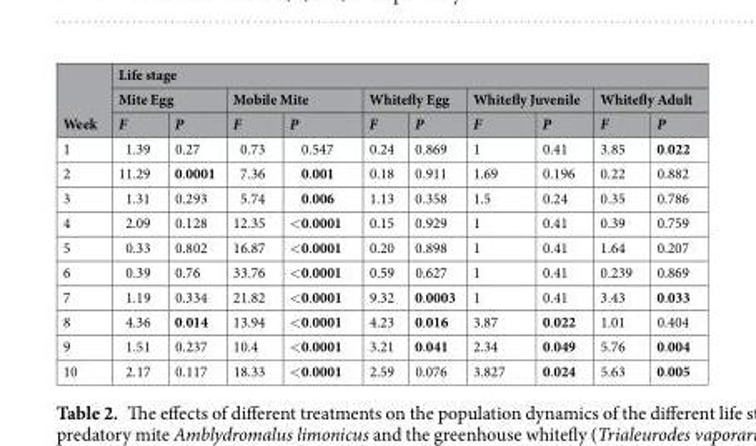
<table><thead><tr><td rowspan="3">Week</td><td colspan="10">Life stage</td></tr><tr><td colspan="2">Mite Egg</td><td colspan="2">Mobile Mite</td><td colspan="2">Whitefly Egg</td><td colspan="2">Whitefly Juvenile</td><td colspan="2">Whitefly Adult</td></tr><tr><td>F</td><td>P</td><td>F</td><td>P</td><td>F</td><td>P</td><td>F</td><td>P</td><td>F</td><td>P</td></tr></thead><tbody><tr><td>1</td><td>1.39</td><td>0.27</td><td>0.73</td><td>0.547</td><td>0.24</td><td>0.869</td><td>1</td><td>0.41</td><td>3.85</td><td>0.022</td></tr><tr><td>2</td><td>11.29</td><td>0.0001</td><td>7.36</td><td>0.001</td><td>0.18</td><td>0.911</td><td>1.69</td><td>0.196</td><td>0.22</td><td>0.882</td></tr><tr><td>3</td><td>1.31</td><td>0.293</td><td>5.74</td><td>0.006</td><td>1.13</td><td>0.358</td><td>1.5</td><td>0.24</td><td>0.35</td><td>0.786</td></tr><tr><td>4</td><td>2.09</td><td>0.128</td><td>12.35</td><td>&lt;0.0001</td><td>0.15</td><td>0.929</td><td>1</td><td>0.41</td><td>0.39</td><td>0.759</td></tr><tr><td>5</td><td>0.33</td><td>0.802</td><td>16.87</td><td>&lt;0.0001</td><td>0.20</td><td>0.898</td><td>1</td><td>0.41</td><td>1.64</td><td>0.207</td></tr><tr><td>6</td><td>0.39</td><td>0.76</td><td>33.76</td><td>&lt;0.0001</td><td>0.59</td><td>0.627</td><td>1</td><td>0.41</td><td>0.239</td><td>0.869</td></tr><tr><td>7</td><td>1.19</td><td>0.334</td><td>21.82</td><td>&lt;0.0001</td><td>9.32</td><td>0.0003</td><td>1</td><td>0.41</td><td>3.43</td><td>0.033</td></tr><tr><td>8</td><td>4.36</td><td>0.014</td><td>13.94</td><td>&lt;0.0001</td><td>4.23</td><td>0.016</td><td>3.87</td><td>0.022</td><td>1.01</td><td>0.404</td></tr><tr><td>9</td><td>1.51</td><td>0.237</td><td>10.4</td><td>&lt;0.0001</td><td>3.21</td><td>0.041</td><td>2.34</td><td>0.049</td><td>5.76</td><td>0.004</td></tr><tr><td>10</td><td>2.17</td><td>0.117</td><td>18.33</td><td>&lt;0.0001</td><td>2.59</td><td>0.076</td><td>3.827</td><td>0.024</td><td>5.63</td><td>0.005</td></tr></tbody></table>